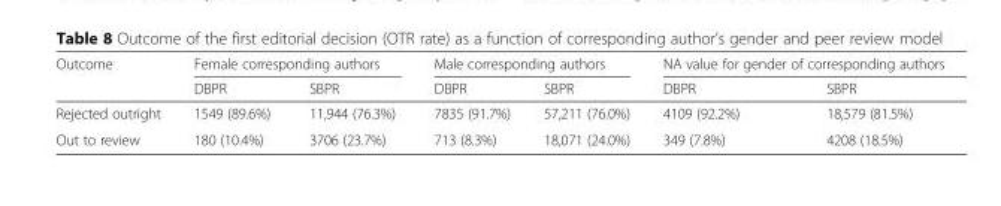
<table><thead><tr><td rowspan="2">Outcome</td><td colspan="2">Female corresponding authors</td><td colspan="2">Male corresponding authors</td><td colspan="2">NA value for gender of corresponding authors</td></tr><tr><td>DBPR</td><td>SBPR</td><td>DBPR</td><td>SBPR</td><td>DBPR</td><td>SBPR</td></tr></thead><tbody><tr><td>Rejected outright</td><td>1549 (89.6%)</td><td>11,944 (76.3%)</td><td>7835 (91.7%)</td><td>57,211 (76.0%)</td><td>4109 (92.2%)</td><td>18,579 (81.5%)</td></tr><tr><td>Out to review</td><td>180 (10.4%)</td><td>3706 (23.7%)</td><td>713 (8.3%)</td><td>18,071 (24.0%)</td><td>349 (7.8%)</td><td>4208 (18.5%)</td></tr></tbody></table>